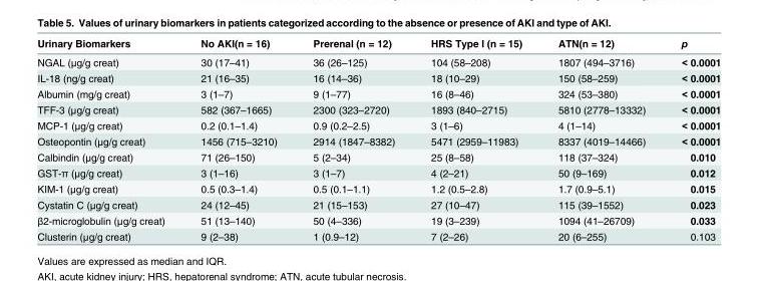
<table><thead><tr><td>Urinary Biomarkers</td><td>No AKI(n = 16)</td><td>Prerenal (n = 12)</td><td>HRS Type I (n = 15)</td><td>ATN(n = 12)</td><td>p</td></tr></thead><tbody><tr><td>NGAL (μg/g creat)</td><td>30 (17–41)</td><td>36 (26–125)</td><td>104 (58–208)</td><td>1807 (494–3716)</td><td>&lt; 0.0001</td></tr><tr><td>IL-18 (ng/g creat)</td><td>21 (16–35)</td><td>16 (14–36)</td><td>18 (10–29)</td><td>150 (58–259)</td><td>&lt; 0.0001</td></tr><tr><td>Albumin (mg/g creat)</td><td>3 (1–7)</td><td>9 (1–77)</td><td>16 (8–46)</td><td>324 (53–380)</td><td>&lt; 0.0001</td></tr><tr><td>TFF-3 (μg/g creat)</td><td>582 (367–1665)</td><td>2300 (323–2720)</td><td>1893 (840–2715)</td><td>5810 (2778–13332)</td><td>&lt; 0.0001</td></tr><tr><td>MCP-1 (μg/g creat)</td><td>0.2 (0.1–1.4)</td><td>0.9 (0.2–2.5)</td><td>3 (1–6)</td><td>4 (1–14)</td><td>&lt; 0.0001</td></tr><tr><td>Osteopontin (μg/g creat)</td><td>1456 (715–3210)</td><td>2914 (1847–8382)</td><td>5471 (2959–11983)</td><td>8337 (4019–14466)</td><td>&lt; 0.0001</td></tr><tr><td>Calbindin (μg/g creat)</td><td>71 (26–150)</td><td>5 (2–34)</td><td>25 (8–58)</td><td>118 (37–324)</td><td>0.010</td></tr><tr><td>GST-π (μg/g creat)</td><td>3 (1–16)</td><td>3 (1–7)</td><td>4 (2–21)</td><td>50 (9–169)</td><td>0.012</td></tr><tr><td>KIM-1 (μg/g creat)</td><td>0.5 (0.3–1.4)</td><td>0.5 (0.1–1.1)</td><td>1.2 (0.5–2.8)</td><td>1.7 (0.9–5.1)</td><td>0.015</td></tr><tr><td>Cystatin C (μg/g creat)</td><td>24 (12–45)</td><td>21 (15–153)</td><td>27 (10–47)</td><td>115 (39–1552)</td><td>0.023</td></tr><tr><td>β2-microglobulin (μg/g creat)</td><td>51 (13–140)</td><td>50 (4–336)</td><td>19 (3–239)</td><td>1094 (41–26709)</td><td>0.033</td></tr><tr><td>Clusterin (μg/g creat)</td><td>9 (2–38)</td><td>1 (0.9–12)</td><td>7 (2–26)</td><td>20 (6–255)</td><td>0.103</td></tr></tbody></table>